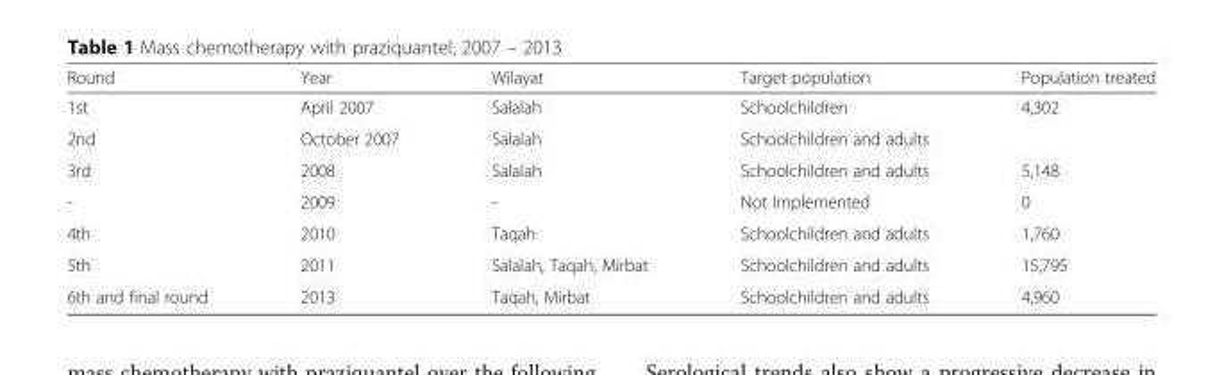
<table><thead><tr><td>Round</td><td>Year</td><td>Wilayat</td><td>Target population</td><td>Population treated</td></tr></thead><tbody><tr><td>1st</td><td>April 2007</td><td>Salalah</td><td>Schoolchildren</td><td rowspan="2">4,302</td></tr><tr><td>2nd</td><td>October 2007</td><td>Salalah</td><td>Schoolchildren and adults</td></tr><tr><td>3rd</td><td>2008</td><td>Salalah</td><td>Schoolchildren and adults</td><td>5,148</td></tr><tr><td>-</td><td>2009</td><td>-</td><td>Not Implemented</td><td>0</td></tr><tr><td>4th</td><td>2010</td><td>Taqah</td><td>Schoolchildren and adults</td><td>1,760</td></tr><tr><td>5th</td><td>2011</td><td>Salalah, Taqah, Mirbat</td><td>Schoolchildren and adults</td><td>15,795</td></tr><tr><td>6th and final round</td><td>2013</td><td>Taqah, Mirbat</td><td>Schoolchildren and adults</td><td>4,960</td></tr></tbody></table>